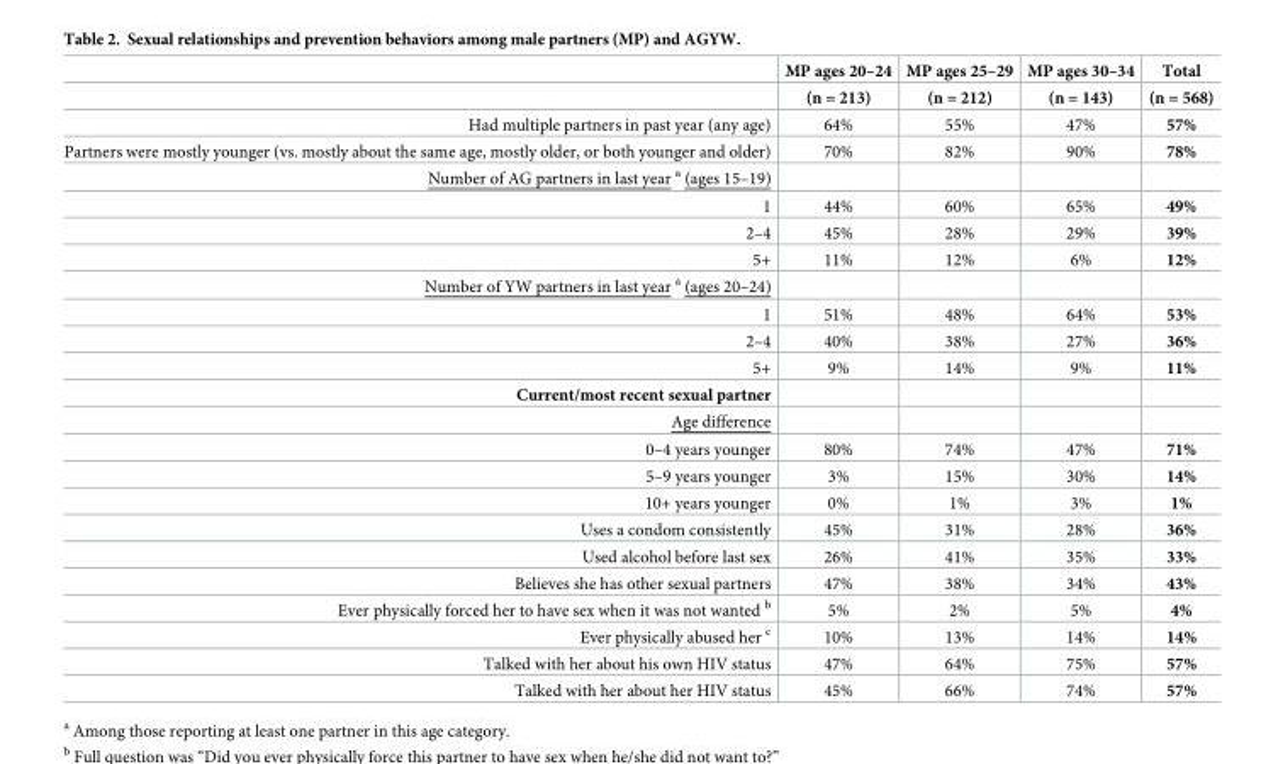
<table><thead><tr><td rowspan="2"></td><td rowspan="2">MP ages 20–24 (n = 213)</td><td rowspan="2">MP ages 25–29 (n = 212)</td><td rowspan="2">MP ages 30–34 (n = 143)</td><td rowspan="2">Total (n = 568)</td></tr><tr></tr></thead><tbody><tr><td>Had multiple partners in past year (any age)</td><td>64%</td><td>55%</td><td>47%</td><td>57%</td></tr><tr><td>Partners were mostly younger (vs. mostly about the same age, mostly older, or both younger and older)</td><td>70%</td><td>82%</td><td>90%</td><td>78%</td></tr><tr><td colspan="5">Number of AG partners in last year <sup>a</sup> (ages 15–19)</td></tr><tr><td>1</td><td>44%</td><td>60%</td><td>65%</td><td>49%</td></tr><tr><td>2–4</td><td>45%</td><td>28%</td><td>29%</td><td>39%</td></tr><tr><td>5+</td><td>11%</td><td>12%</td><td>6%</td><td>12%</td></tr><tr><td colspan="5">Number of YW partners in last year <sup>a</sup> (ages 20–24)</td></tr><tr><td>1</td><td>51%</td><td>48%</td><td>64%</td><td>53%</td></tr><tr><td>2–4</td><td>40%</td><td>38%</td><td>27%</td><td>36%</td></tr><tr><td>5+</td><td>9%</td><td>14%</td><td>9%</td><td>11%</td></tr><tr><td colspan="5">Current/most recent sexual partner</td></tr><tr><td colspan="5">Age difference</td></tr><tr><td>0–4 years younger</td><td>80%</td><td>74%</td><td>47%</td><td>71%</td></tr><tr><td>5–9 years younger</td><td>3%</td><td>15%</td><td>30%</td><td>14%</td></tr><tr><td>10+ years younger</td><td>0%</td><td>1%</td><td>3%</td><td>1%</td></tr><tr><td>Uses a condom consistently</td><td>45%</td><td>31%</td><td>28%</td><td>36%</td></tr><tr><td>Used alcohol before last sex</td><td>26%</td><td>41%</td><td>35%</td><td>33%</td></tr><tr><td>Believes she has other sexual partners</td><td>47%</td><td>38%</td><td>34%</td><td>43%</td></tr><tr><td>Ever physically forced her to have sex when it was not wanted <sup>b</sup></td><td>5%</td><td>2%</td><td>5%</td><td>4%</td></tr><tr><td>Ever physically abused her <sup>c</sup></td><td>10%</td><td>13%</td><td>14%</td><td>14%</td></tr><tr><td>Talked with her about his own HIV status</td><td>47%</td><td>64%</td><td>75%</td><td>57%</td></tr><tr><td>Talked with her about her HIV status</td><td>45%</td><td>66%</td><td>74%</td><td>57%</td></tr></tbody></table>